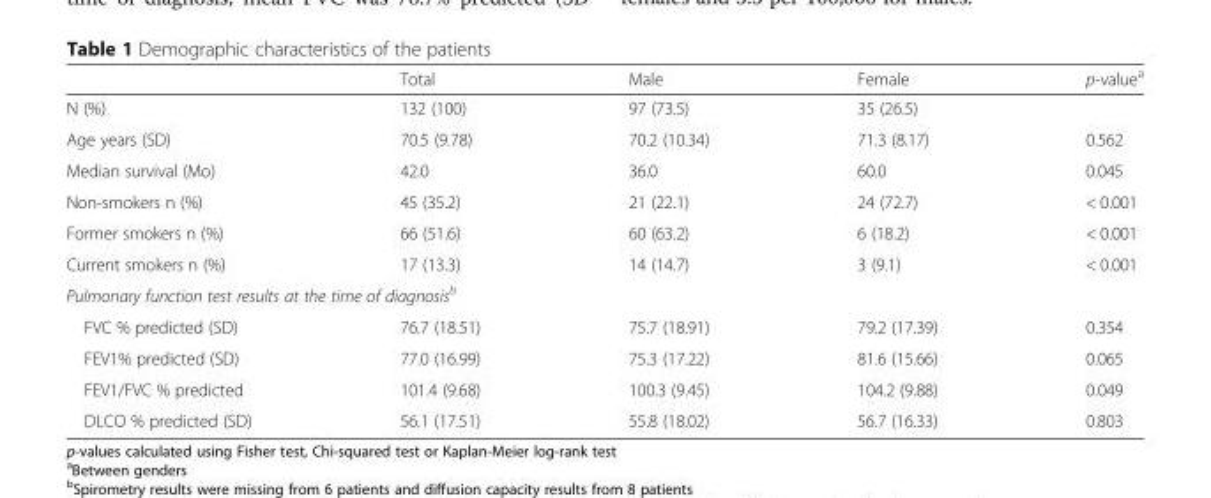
<table><thead><tr><td></td><td>Total</td><td>Male</td><td>Female</td><td>p-value<sup>a</sup></td></tr></thead><tbody><tr><td>N (%)</td><td>132 (100)</td><td>97 (73.5)</td><td>35 (26.5)</td><td></td></tr><tr><td>Age years (SD)</td><td>70.5 (9.78)</td><td>70.2 (10.34)</td><td>71.3 (8.17)</td><td>0.562</td></tr><tr><td>Median survival (Mo)</td><td>42.0</td><td>36.0</td><td>60.0</td><td>0.045</td></tr><tr><td>Non-smokers n (%)</td><td>45 (35.2)</td><td>21 (22.1)</td><td>24 (72.7)</td><td>&lt; 0.001</td></tr><tr><td>Former smokers n (%)</td><td>66 (51.6)</td><td>60 (63.2)</td><td>6 (18.2)</td><td>&lt; 0.001</td></tr><tr><td>Current smokers n (%)</td><td>17 (13.3)</td><td>14 (14.7)</td><td>3 (9.1)</td><td>&lt; 0.001</td></tr><tr><td colspan="5">Pulmonary function test results at the time of diagnosis<sup>b</sup></td></tr><tr><td>FVC % predicted (SD)</td><td>76.7 (18.51)</td><td>75.7 (18.91)</td><td>79.2 (17.39)</td><td>0.354</td></tr><tr><td>FEV1% predicted (SD)</td><td>77.0 (16.99)</td><td>75.3 (17.22)</td><td>81.6 (15.66)</td><td>0.065</td></tr><tr><td>FEV1/FVC % predicted</td><td>101.4 (9.68)</td><td>100.3 (9.45)</td><td>104.2 (9.88)</td><td>0.049</td></tr><tr><td>DLCO % predicted (SD)</td><td>56.1 (17.51)</td><td>55.8 (18.02)</td><td>56.7 (16.33)</td><td>0.803</td></tr></tbody></table>